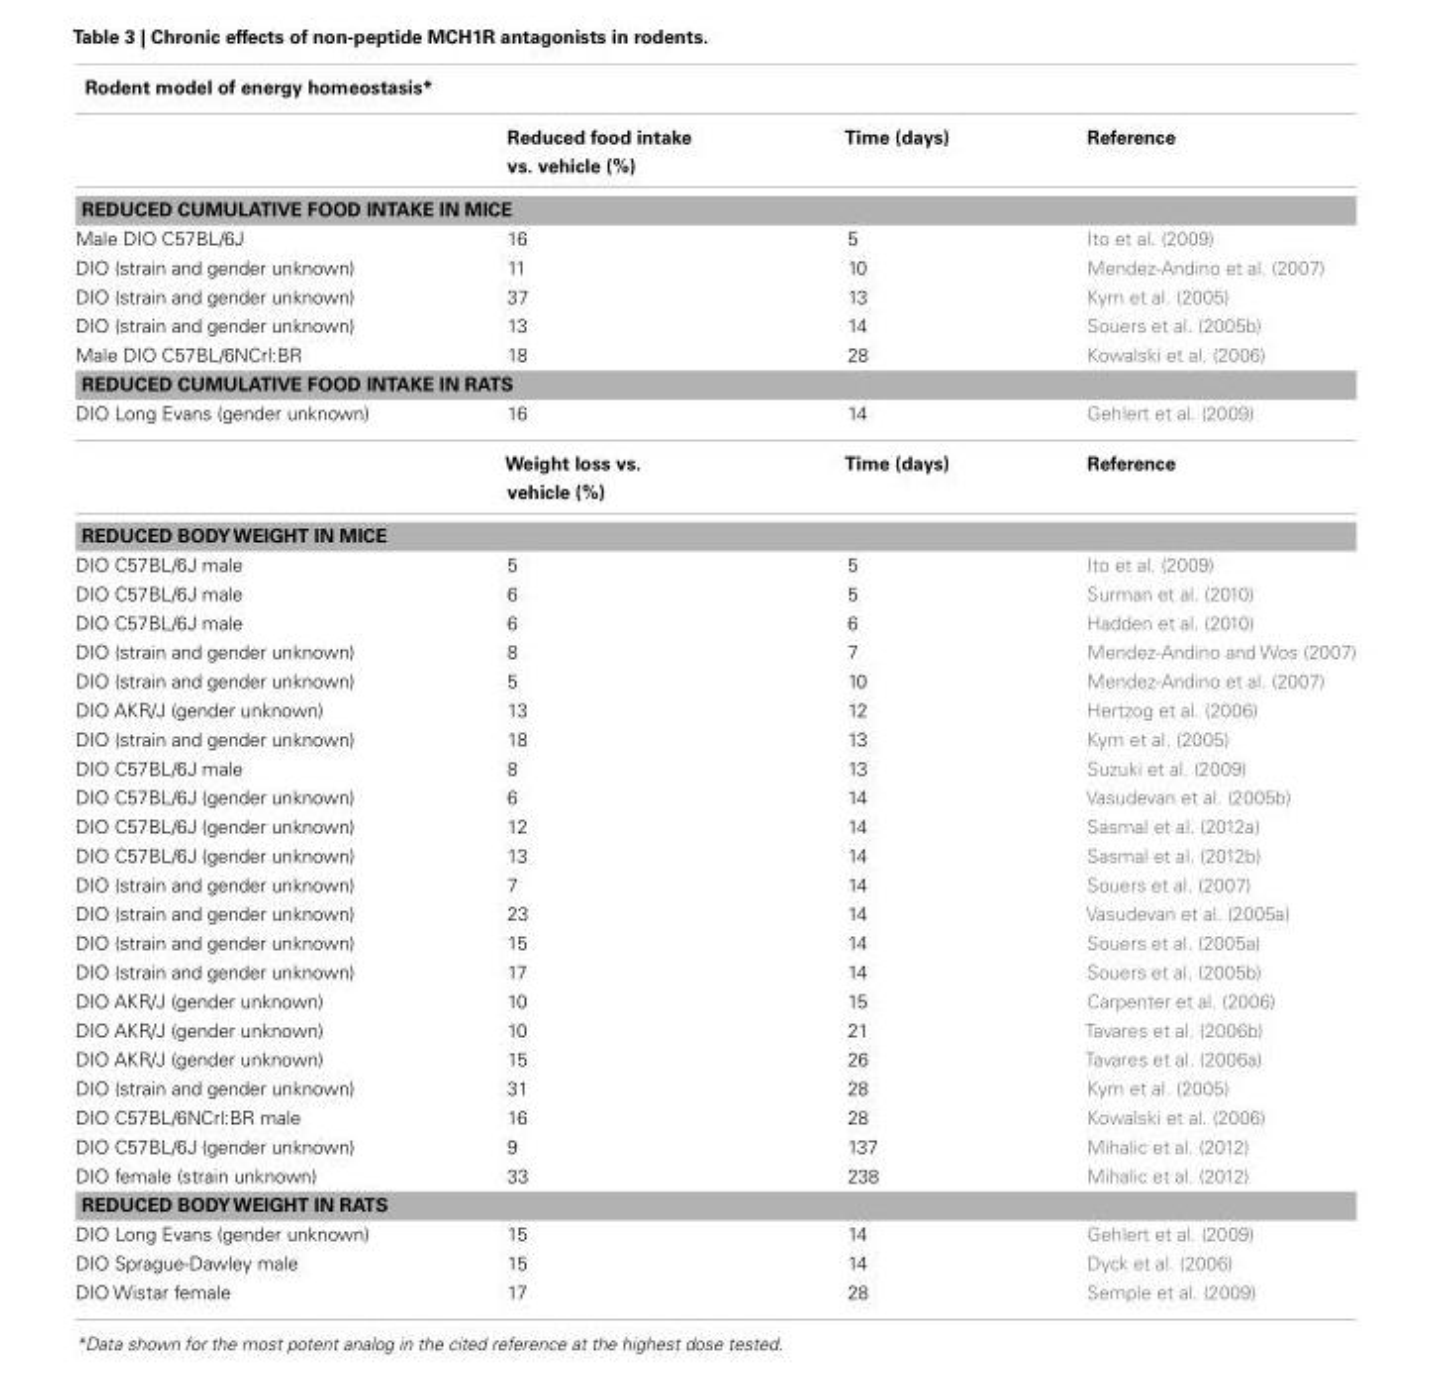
<table><thead><tr><td colspan="4">Rodent model of energy homeostasis*</td></tr><tr><td></td><td>Reduced food intake vs. vehicle (%)</td><td>Time (days)</td><td>Reference</td></tr></thead><tbody><tr><td colspan="4">REDUCED CUMULATIVE FOOD INTAKE IN MICE</td></tr><tr><td>Male DIO C57BL/6J</td><td>16</td><td>5</td><td>Ito et al. (2009)</td></tr><tr><td>DIO (strain and gender unknown)</td><td>11</td><td>10</td><td>Mendez-Andino et al. (2007)</td></tr><tr><td>DIO (strain and gender unknown)</td><td>37</td><td>13</td><td>Kym et al. (2005)</td></tr><tr><td>DIO (strain and gender unknown)</td><td>13</td><td>14</td><td>Souers et al. (2005b)</td></tr><tr><td>Male DIO C57BL/6NCrl:BR</td><td>18</td><td>28</td><td>Kowalski et al. (2006)</td></tr><tr><td colspan="4">REDUCED CUMULATIVE FOOD INTAKE IN RATS</td></tr><tr><td rowspan="2">DIO Long Evans (gender unknown)</td><td>16</td><td>14</td><td>Gehlert et al. (2009)</td></tr><tr><td>Weight loss vs. vehicle (%)</td><td>Time (days)</td><td>Reference</td></tr><tr><td colspan="4">REDUCED BODY WEIGHT IN MICE</td></tr><tr><td>DIO C57BL/6J male</td><td>5</td><td>5</td><td>Ito et al. (2009)</td></tr><tr><td>DIO C57BL/6J male</td><td>6</td><td>5</td><td>Surman et al. (2010)</td></tr><tr><td>DIO C57BL/6J male</td><td>6</td><td>6</td><td>Hadden et al. (2010)</td></tr><tr><td>DIO (strain and gender unknown)</td><td>8</td><td>7</td><td>Mendez-Andino and Wos (2007)</td></tr><tr><td>DIO (strain and gender unknown)</td><td>5</td><td>10</td><td>Mendez-Andino et al. (2007)</td></tr><tr><td>DIO AKR/J (gender unknown)</td><td>13</td><td>12</td><td>Hertzog et al. (2006)</td></tr><tr><td>DIO (strain and gender unknown)</td><td>18</td><td>13</td><td>Kym et al. (2005)</td></tr><tr><td>DIO C57BL/6J male</td><td>8</td><td>13</td><td>Suzuki et al. (2009)</td></tr><tr><td>DIO C57BL/6J (gender unknown)</td><td>6</td><td>14</td><td>Vasudevan et al. (2005b)</td></tr><tr><td>DIO C57BL/6J (gender unknown)</td><td>12</td><td>14</td><td>Sasmal et al. (2012a)</td></tr><tr><td>DIO C57BL/6J (gender unknown)</td><td>13</td><td>14</td><td>Sasmal et al. (2012b)</td></tr><tr><td>DIO (strain and gender unknown)</td><td>7</td><td>14</td><td>Souers et al. (2007)</td></tr><tr><td>DIO (strain and gender unknown)</td><td>23</td><td>14</td><td>Vasudevan et al. (2005a)</td></tr><tr><td>DIO (strain and gender unknown)</td><td>15</td><td>14</td><td>Souers et al. (2005a)</td></tr><tr><td>DIO (strain and gender unknown)</td><td>17</td><td>14</td><td>Souers et al. (2005b)</td></tr><tr><td>DIO AKR/J (gender unknown)</td><td>10</td><td>15</td><td>Carpenter et al. (2006)</td></tr><tr><td>DIO AKR/J (gender unknown)</td><td>10</td><td>21</td><td>Tavares et al. (2006b)</td></tr><tr><td>DIO AKR/J (gender unknown)</td><td>15</td><td>26</td><td>Tavares et al. (2006a)</td></tr><tr><td>DIO (strain and gender unknown)</td><td>31</td><td>28</td><td>Kym et al. (2005)</td></tr><tr><td>DIO C57BL/6NCrl:BR male</td><td>16</td><td>28</td><td>Kowalski et al. (2006)</td></tr><tr><td>DIO C57BL/6J (gender unknown)</td><td>9</td><td>137</td><td>Mihalic et al. (2012)</td></tr><tr><td>DIO female (strain unknown)</td><td>33</td><td>238</td><td>Mihalic et al. (2012)</td></tr><tr><td colspan="4">REDUCED BODY WEIGHT IN RATS</td></tr><tr><td>DIO Long Evans (gender unknown)</td><td>15</td><td>14</td><td>Gehlert et al. (2009)</td></tr><tr><td>DIO Sprague-Dawley male</td><td>15</td><td>14</td><td>Dyck et al. (2006)</td></tr><tr><td>DIO Wistar female</td><td>17</td><td>28</td><td>Semple et al. (2009)</td></tr></tbody></table>